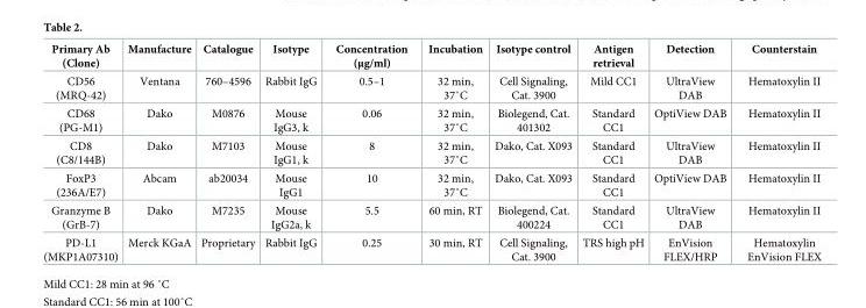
<table><thead><tr><td>Primary Ab (Clone)</td><td>Manufacture</td><td>Catalogue</td><td>Isotype</td><td>Concentration (μg/ml)</td><td>Incubation</td><td>Isotype control</td><td>Antigen retrieval</td><td>Detection</td><td>Counterstain</td></tr></thead><tbody><tr><td>CD56 (MRQ-42)</td><td>Ventana</td><td>760–4596</td><td>Rabbit IgG</td><td>0.5–1</td><td>32 min, 37˚C</td><td>Cell Signaling, Cat. 3900</td><td>Mild CC1</td><td>UltraView DAB</td><td>Hematoxylin II</td></tr><tr><td>CD68 (PG-M1)</td><td>Dako</td><td>M0876</td><td>Mouse IgG3, k</td><td>0.06</td><td>32 min, 37˚C</td><td>Biolegend, Cat. 401302</td><td>Standard CC1</td><td>OptiView DAB</td><td>Hematoxylin II</td></tr><tr><td>CD8 (C8/144B)</td><td>Dako</td><td>M7103</td><td>Mouse IgG1, k</td><td>8</td><td>32 min, 37˚C</td><td>Dako, Cat. X093</td><td>Standard CC1</td><td>UltraView DAB</td><td>Hematoxylin II</td></tr><tr><td>FoxP3 (236A/E7)</td><td>Abcam</td><td>ab20034</td><td>Mouse IgG1</td><td>10</td><td>32 min, 37˚C</td><td>Dako, Cat. X093</td><td>Standard CC1</td><td>OptiView DAB</td><td>Hematoxylin II</td></tr><tr><td>Granzyme B (GrB-7)</td><td>Dako</td><td>M7235</td><td>Mouse IgG2a, k</td><td>5.5</td><td>60 min, RT</td><td>Biolegend, Cat. 400224</td><td>Standard CC1</td><td>UltraView DAB</td><td>Hematoxylin II</td></tr><tr><td>PD-L1 (MKP1A07310)</td><td>Merck KGaA</td><td>Proprietary</td><td>Rabbit IgG</td><td>0.25</td><td>30 min, RT</td><td>Cell Signaling, Cat. 3900</td><td>TRS high pH</td><td>EnVision FLEX/HRP</td><td>Hematoxylin EnVision FLEX</td></tr></tbody></table>